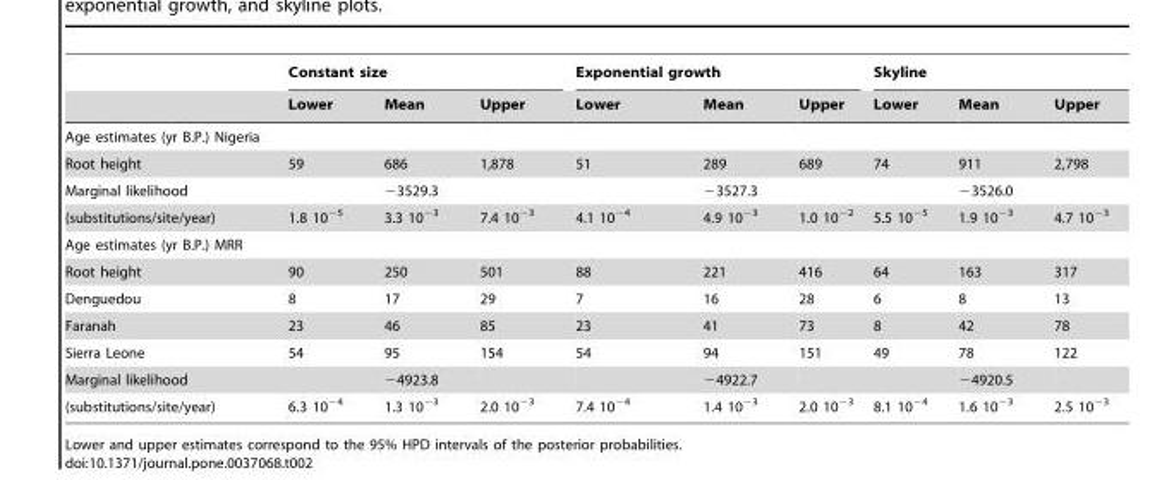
<table><thead><tr><td rowspan="2"></td><td colspan="3">Constant size</td><td colspan="3">Exponential growth</td><td colspan="3">Skyline</td></tr><tr><td>Lower</td><td>Mean</td><td>Upper</td><td>Lower</td><td>Mean</td><td>Upper</td><td>Lower</td><td>Mean</td><td>Upper</td></tr></thead><tbody><tr><td colspan="10">Age estimates (yr B.P.) Nigeria</td></tr><tr><td>Root height</td><td>59</td><td>686</td><td>1,878</td><td>51</td><td>289</td><td>689</td><td>74</td><td>911</td><td>2,798</td></tr><tr><td>Marginal likelihood</td><td></td><td>−3529.3</td><td></td><td></td><td>−3527.3</td><td></td><td></td><td>−3526.0</td><td></td></tr><tr><td>(substitutions/site/year)</td><td>1.8 10<sup>−5</sup></td><td>3.3 10<sup>−3</sup></td><td>7.4 10<sup>−3</sup></td><td>4.1 10<sup>−4</sup></td><td>4.9 10<sup>−3</sup></td><td>1.0 10<sup>−2</sup></td><td>5.5 10<sup>−5</sup></td><td>1.9 10<sup>−3</sup></td><td>4.7 10<sup>−3</sup></td></tr><tr><td colspan="10">Age estimates (yr B.P.) MRR</td></tr><tr><td>Root height</td><td>90</td><td>250</td><td>501</td><td>88</td><td>221</td><td>416</td><td>64</td><td>163</td><td>317</td></tr><tr><td>Denguedou</td><td>8</td><td>17</td><td>29</td><td>7</td><td>16</td><td>28</td><td>6</td><td>8</td><td>13</td></tr><tr><td>Faranah</td><td>23</td><td>46</td><td>85</td><td>23</td><td>41</td><td>73</td><td>8</td><td>42</td><td>78</td></tr><tr><td>Sierra Leone</td><td>54</td><td>95</td><td>154</td><td>54</td><td>94</td><td>151</td><td>49</td><td>78</td><td>122</td></tr><tr><td>Marginal likelihood</td><td></td><td>−4923.8</td><td></td><td></td><td>−4922.7</td><td></td><td></td><td>−4920.5</td><td></td></tr><tr><td>(substitutions/site/year)</td><td>6.3 10<sup>−4</sup></td><td>1.3 10<sup>−3</sup></td><td>2.0 10<sup>−3</sup></td><td>7.4 10<sup>−4</sup></td><td>1.4 10<sup>−3</sup></td><td>2.0 10<sup>−3</sup></td><td>8.1 10<sup>−4</sup></td><td>1.6 10<sup>−3</sup></td><td>2.5 10<sup>−3</sup></td></tr></tbody></table>